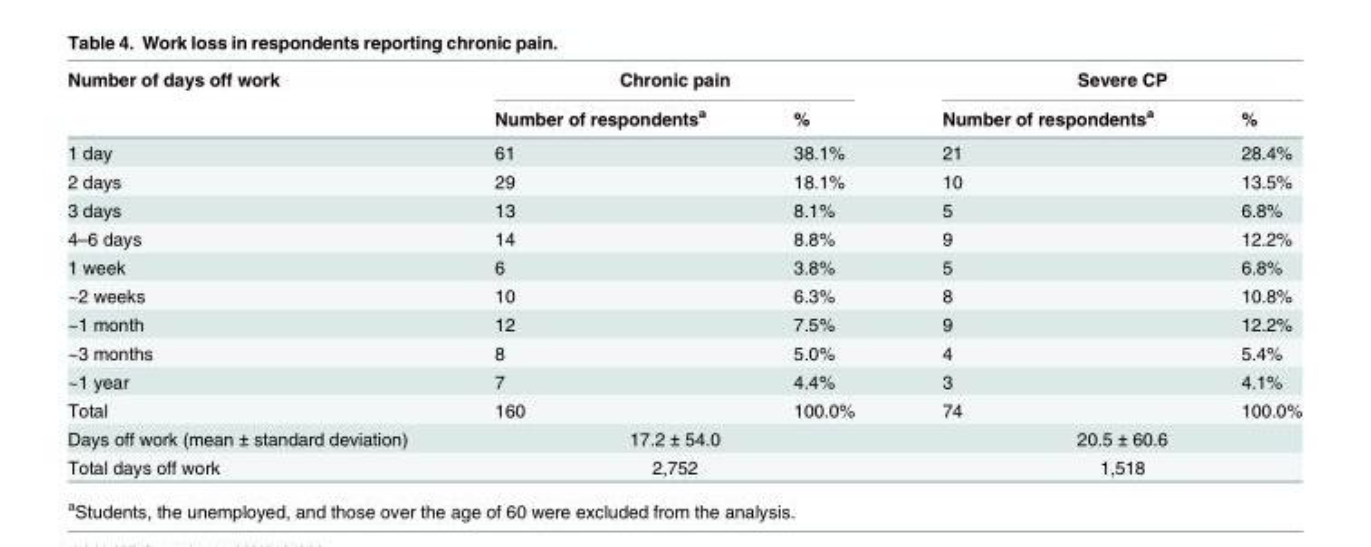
<table><thead><tr><td rowspan="2">Number of days off work</td><td colspan="2">Chronic pain</td><td colspan="2">Severe CP</td></tr><tr><td>Number of respondents<sup>a</sup></td><td>%</td><td>Number of respondents<sup>a</sup></td><td>%</td></tr></thead><tbody><tr><td>1 day</td><td>61</td><td>38.1%</td><td>21</td><td>28.4%</td></tr><tr><td>2 days</td><td>29</td><td>18.1%</td><td>10</td><td>13.5%</td></tr><tr><td>3 days</td><td>13</td><td>8.1%</td><td>5</td><td>6.8%</td></tr><tr><td>4–6 days</td><td>14</td><td>8.8%</td><td>9</td><td>12.2%</td></tr><tr><td>1 week</td><td>6</td><td>3.8%</td><td>5</td><td>6.8%</td></tr><tr><td>~2 weeks</td><td>10</td><td>6.3%</td><td>8</td><td>10.8%</td></tr><tr><td>~1 month</td><td>12</td><td>7.5%</td><td>9</td><td>12.2%</td></tr><tr><td>~3 months</td><td>8</td><td>5.0%</td><td>4</td><td>5.4%</td></tr><tr><td>~1 year</td><td>7</td><td>4.4%</td><td>3</td><td>4.1%</td></tr><tr><td>Total</td><td>160</td><td>100.0%</td><td>74</td><td>100.0%</td></tr><tr><td>Days off work (mean ± standard deviation)</td><td colspan="2">17.2 ± 54.0</td><td colspan="2">20.5 ± 60.6</td></tr><tr><td>Total days off work</td><td colspan="2">2,752</td><td colspan="2">1,518</td></tr></tbody></table>